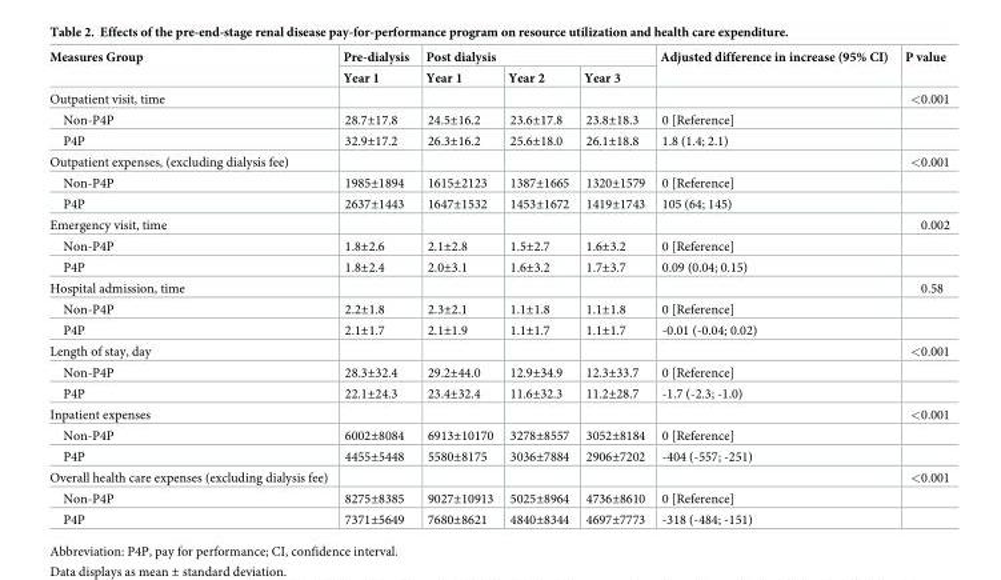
<table><thead><tr><td rowspan="2">Measures Group</td><td rowspan="2">Pre-dialysis Year 1</td><td colspan="3">Post dialysis</td><td rowspan="2">Adjusted difference in increase (95% CI)</td><td rowspan="2">P value</td></tr><tr><td>Year 1</td><td>Year 2</td><td>Year 3</td></tr></thead><tbody><tr><td>Outpatient visit, time</td><td></td><td></td><td></td><td></td><td></td><td>&lt;0.001</td></tr><tr><td>Non-P4P</td><td>28.7±17.8</td><td>24.5±16.2</td><td>23.6±17.8</td><td>23.8±18.3</td><td>0 [Reference]</td><td></td></tr><tr><td>P4P</td><td>32.9±17.2</td><td>26.3±16.2</td><td>25.6±18.0</td><td>26.1±18.8</td><td>1.8 (1.4; 2.1)</td><td></td></tr><tr><td>Outpatient expenses, (excluding dialysis fee)</td><td></td><td></td><td></td><td></td><td></td><td>&lt;0.001</td></tr><tr><td>Non-P4P</td><td>1985±1894</td><td>1615±2123</td><td>1387±1665</td><td>1320±1579</td><td>0 [Reference]</td><td></td></tr><tr><td>P4P</td><td>2637±1443</td><td>1647±1532</td><td>1453±1672</td><td>1419±1743</td><td>105 (64; 145)</td><td></td></tr><tr><td>Emergency visit, time</td><td></td><td></td><td></td><td></td><td></td><td>0.002</td></tr><tr><td>Non-P4P</td><td>1.8±2.6</td><td>2.1±2.8</td><td>1.5±2.7</td><td>1.6±3.2</td><td>0 [Reference]</td><td></td></tr><tr><td>P4P</td><td>1.8±2.4</td><td>2.0±3.1</td><td>1.6±3.2</td><td>1.7±3.7</td><td>0.09 (0.04; 0.15)</td><td></td></tr><tr><td>Hospital admission, time</td><td></td><td></td><td></td><td></td><td></td><td>0.58</td></tr><tr><td>Non-P4P</td><td>2.2±1.8</td><td>2.3±2.1</td><td>1.1±1.8</td><td>1.1±1.8</td><td>0 [Reference]</td><td></td></tr><tr><td>P4P</td><td>2.1±1.7</td><td>2.1±1.9</td><td>1.1±1.7</td><td>1.1±1.7</td><td>-0.01 (-0.04; 0.02)</td><td></td></tr><tr><td>Length of stay, day</td><td></td><td></td><td></td><td></td><td></td><td>&lt;0.001</td></tr><tr><td>Non-P4P</td><td>28.3±32.4</td><td>29.2±44.0</td><td>12.9±34.9</td><td>12.3±33.7</td><td>0 [Reference]</td><td></td></tr><tr><td>P4P</td><td>22.1±24.3</td><td>23.4±32.4</td><td>11.6±32.3</td><td>11.2±28.7</td><td>-1.7 (-2.3; -1.0)</td><td></td></tr><tr><td>Inpatient expenses</td><td></td><td></td><td></td><td></td><td></td><td>&lt;0.001</td></tr><tr><td>Non-P4P</td><td>6002±8084</td><td>6913±10170</td><td>3278±8557</td><td>3052±8184</td><td>0 [Reference]</td><td></td></tr><tr><td>P4P</td><td>4455±5448</td><td>5580±8175</td><td>3036±7884</td><td>2906±7202</td><td>-404 (-557; -251)</td><td></td></tr><tr><td>Overall health care expenses (excluding dialysis fee)</td><td></td><td></td><td></td><td></td><td></td><td>&lt;0.001</td></tr><tr><td>Non-P4P</td><td>8275±8385</td><td>9027±10913</td><td>5025±8964</td><td>4736±8610</td><td>0 [Reference]</td><td></td></tr><tr><td>P4P</td><td>7371±5649</td><td>7680±8621</td><td>4840±8344</td><td>4697±7773</td><td>-318 (-484; -151)</td><td></td></tr></tbody></table>